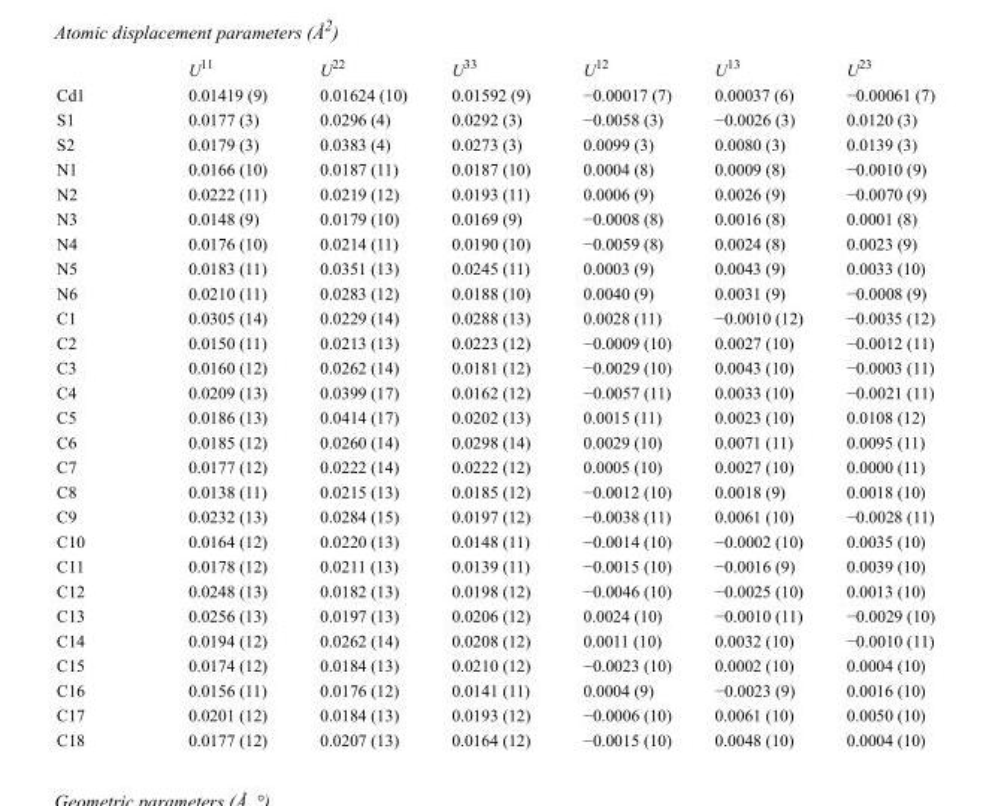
<table><thead><tr><td></td><td>U<sup>11</sup></td><td>U<sup>22</sup></td><td>U<sup>33</sup></td><td>U<sup>12</sup></td><td>U<sup>13</sup></td><td>U<sup>23</sup></td></tr></thead><tbody><tr><td>Cd1</td><td>0.01419 (9)</td><td>0.01624 (10)</td><td>0.01592 (9)</td><td>−0.00017 (7)</td><td>0.00037 (6)</td><td>−0.00061 (7)</td></tr><tr><td>S1</td><td>0.0177 (3)</td><td>0.0296 (4)</td><td>0.0292 (3)</td><td>−0.0058 (3)</td><td>−0.0026 (3)</td><td>0.0120 (3)</td></tr><tr><td>S2</td><td>0.0179 (3)</td><td>0.0383 (4)</td><td>0.0273 (3)</td><td>0.0099 (3)</td><td>0.0080 (3)</td><td>0.0139 (3)</td></tr><tr><td>N1</td><td>0.0166 (10)</td><td>0.0187 (11)</td><td>0.0187 (10)</td><td>0.0004 (8)</td><td>0.0009 (8)</td><td>−0.0010 (9)</td></tr><tr><td>N2</td><td>0.0222 (11)</td><td>0.0219 (12)</td><td>0.0193 (11)</td><td>0.0006 (9)</td><td>0.0026 (9)</td><td>−0.0070 (9)</td></tr><tr><td>N3</td><td>0.0148 (9)</td><td>0.0179 (10)</td><td>0.0169 (9)</td><td>−0.0008 (8)</td><td>0.0016 (8)</td><td>0.0001 (8)</td></tr><tr><td>N4</td><td>0.0176 (10)</td><td>0.0214 (11)</td><td>0.0190 (10)</td><td>−0.0059 (8)</td><td>0.0024 (8)</td><td>0.0023 (9)</td></tr><tr><td>N5</td><td>0.0183 (11)</td><td>0.0351 (13)</td><td>0.0245 (11)</td><td>0.0003 (9)</td><td>0.0043 (9)</td><td>0.0033 (10)</td></tr><tr><td>N6</td><td>0.0210 (11)</td><td>0.0283 (12)</td><td>0.0188 (10)</td><td>0.0040 (9)</td><td>0.0031 (9)</td><td>−0.0008 (9)</td></tr><tr><td>C1</td><td>0.0305 (14)</td><td>0.0229 (14)</td><td>0.0288 (13)</td><td>0.0028 (11)</td><td>−0.0010 (12)</td><td>−0.0035 (12)</td></tr><tr><td>C2</td><td>0.0150 (11)</td><td>0.0213 (13)</td><td>0.0223 (12)</td><td>−0.0009 (10)</td><td>0.0027 (10)</td><td>−0.0012 (11)</td></tr><tr><td>C3</td><td>0.0160 (12)</td><td>0.0262 (14)</td><td>0.0181 (12)</td><td>−0.0029 (10)</td><td>0.0043 (10)</td><td>−0.0003 (11)</td></tr><tr><td>C4</td><td>0.0209 (13)</td><td>0.0399 (17)</td><td>0.0162 (12)</td><td>−0.0057 (11)</td><td>0.0033 (10)</td><td>−0.0021 (11)</td></tr><tr><td>C5</td><td>0.0186 (13)</td><td>0.0414 (17)</td><td>0.0202 (13)</td><td>0.0015 (11)</td><td>0.0023 (10)</td><td>0.0108 (12)</td></tr><tr><td>C6</td><td>0.0185 (12)</td><td>0.0260 (14)</td><td>0.0298 (14)</td><td>0.0029 (10)</td><td>0.0071 (11)</td><td>0.0095 (11)</td></tr><tr><td>C7</td><td>0.0177 (12)</td><td>0.0222 (14)</td><td>0.0222 (12)</td><td>0.0005 (10)</td><td>0.0027 (10)</td><td>0.0000 (11)</td></tr><tr><td>C8</td><td>0.0138 (11)</td><td>0.0215 (13)</td><td>0.0185 (12)</td><td>−0.0012 (10)</td><td>0.0018 (9)</td><td>0.0018 (10)</td></tr><tr><td>C9</td><td>0.0232 (13)</td><td>0.0284 (15)</td><td>0.0197 (12)</td><td>−0.0038 (11)</td><td>0.0061 (10)</td><td>−0.0028 (11)</td></tr><tr><td>C10</td><td>0.0164 (12)</td><td>0.0220 (13)</td><td>0.0148 (11)</td><td>−0.0014 (10)</td><td>−0.0002 (10)</td><td>0.0035 (10)</td></tr><tr><td>C11</td><td>0.0178 (12)</td><td>0.0211 (13)</td><td>0.0139 (11)</td><td>−0.0015 (10)</td><td>−0.0016 (9)</td><td>0.0039 (10)</td></tr><tr><td>C12</td><td>0.0248 (13)</td><td>0.0182 (13)</td><td>0.0198 (12)</td><td>−0.0046 (10)</td><td>−0.0025 (10)</td><td>0.0013 (10)</td></tr><tr><td>C13</td><td>0.0256 (13)</td><td>0.0197 (13)</td><td>0.0206 (12)</td><td>0.0024 (10)</td><td>−0.0010 (11)</td><td>−0.0029 (10)</td></tr><tr><td>C14</td><td>0.0194 (12)</td><td>0.0262 (14)</td><td>0.0208 (12)</td><td>0.0011 (10)</td><td>0.0032 (10)</td><td>−0.0010 (11)</td></tr><tr><td>C15</td><td>0.0174 (12)</td><td>0.0184 (13)</td><td>0.0210 (12)</td><td>−0.0023 (10)</td><td>0.0002 (10)</td><td>0.0004 (10)</td></tr><tr><td>C16</td><td>0.0156 (11)</td><td>0.0176 (12)</td><td>0.0141 (11)</td><td>0.0004 (9)</td><td>−0.0023 (9)</td><td>0.0016 (10)</td></tr><tr><td>C17</td><td>0.0201 (12)</td><td>0.0184 (13)</td><td>0.0193 (12)</td><td>−0.0006 (10)</td><td>0.0061 (10)</td><td>0.0050 (10)</td></tr><tr><td>C18</td><td>0.0177 (12)</td><td>0.0207 (13)</td><td>0.0164 (12)</td><td>−0.0015 (10)</td><td>0.0048 (10)</td><td>0.0004 (10)</td></tr></tbody></table>